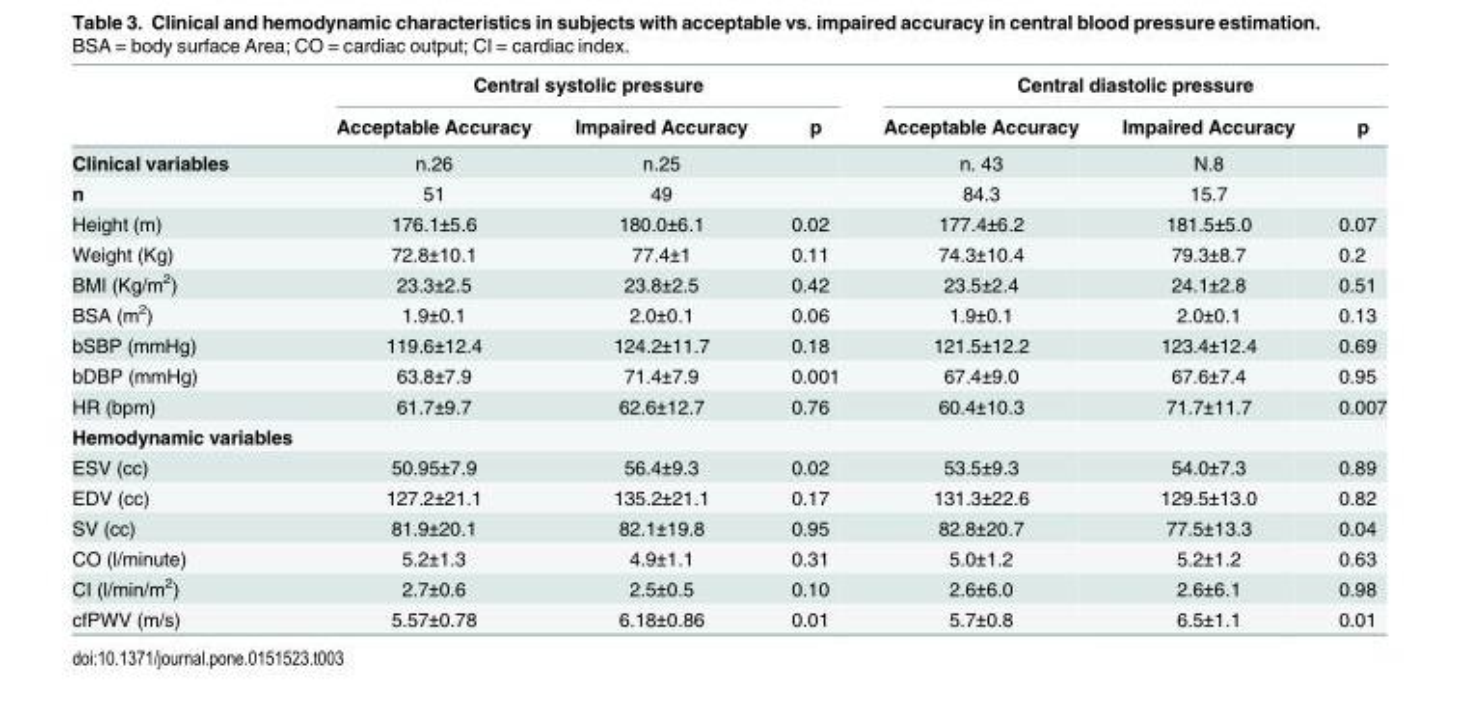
<table><thead><tr><td rowspan="2"></td><td colspan="3">Central systolic pressure</td><td colspan="3">Central diastolic pressure</td></tr><tr><td>Acceptable Accuracy</td><td>Impaired Accuracy</td><td>p</td><td>Acceptable Accuracy</td><td>Impaired Accuracy</td><td>p</td></tr></thead><tbody><tr><td>Clinical variables</td><td>n.26</td><td>n.25</td><td></td><td>n. 43</td><td>N.8</td><td></td></tr><tr><td>n</td><td>51</td><td>49</td><td></td><td>84.3</td><td>15.7</td><td></td></tr><tr><td>Height (m)</td><td>176.1±5.6</td><td>180.0±6.1</td><td>0.02</td><td>177.4±6.2</td><td>181.5±5.0</td><td>0.07</td></tr><tr><td>Weight (Kg)</td><td>72.8±10.1</td><td>77.4±1</td><td>0.11</td><td>74.3±10.4</td><td>79.3±8.7</td><td>0.2</td></tr><tr><td>BMI (Kg/m<sup>2</sup>)</td><td>23.3±2.5</td><td>23.8±2.5</td><td>0.42</td><td>23.5±2.4</td><td>24.1±2.8</td><td>0.51</td></tr><tr><td>BSA (m<sup>2</sup>)</td><td>1.9±0.1</td><td>2.0±0.1</td><td>0.06</td><td>1.9±0.1</td><td>2.0±0.1</td><td>0.13</td></tr><tr><td>bSBP (mmHg)</td><td>119.6±12.4</td><td>124.2±11.7</td><td>0.18</td><td>121.5±12.2</td><td>123.4±12.4</td><td>0.69</td></tr><tr><td>bDBP (mmHg)</td><td>63.8±7.9</td><td>71.4±7.9</td><td>0.001</td><td>67.4±9.0</td><td>67.6±7.4</td><td>0.95</td></tr><tr><td>HR (bpm)</td><td>61.7±9.7</td><td>62.6±12.7</td><td>0.76</td><td>60.4±10.3</td><td>71.7±11.7</td><td>0.007</td></tr><tr><td colspan="7">Hemodynamic variables</td></tr><tr><td>ESV (cc)</td><td>50.95±7.9</td><td>56.4±9.3</td><td>0.02</td><td>53.5±9.3</td><td>54.0±7.3</td><td>0.89</td></tr><tr><td>EDV (cc)</td><td>127.2±21.1</td><td>135.2±21.1</td><td>0.17</td><td>131.3±22.6</td><td>129.5±13.0</td><td>0.82</td></tr><tr><td>SV (cc)</td><td>81.9±20.1</td><td>82.1±19.8</td><td>0.95</td><td>82.8±20.7</td><td>77.5±13.3</td><td>0.04</td></tr><tr><td>CO (l/minute)</td><td>5.2±1.3</td><td>4.9±1.1</td><td>0.31</td><td>5.0±1.2</td><td>5.2±1.2</td><td>0.63</td></tr><tr><td>CI (l/min/m<sup>2</sup>)</td><td>2.7±0.6</td><td>2.5±0.5</td><td>0.10</td><td>2.6±6.0</td><td>2.6±6.1</td><td>0.98</td></tr><tr><td>cfPWV (m/s)</td><td>5.57±0.78</td><td>6.18±0.86</td><td>0.01</td><td>5.7±0.8</td><td>6.5±1.1</td><td>0.01</td></tr></tbody></table>